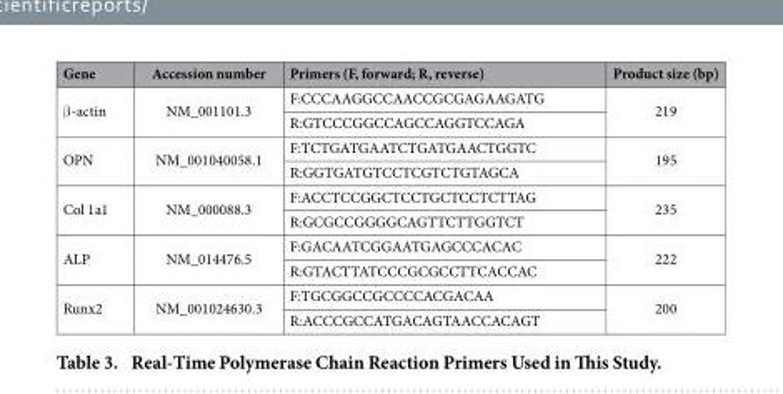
<table><thead><tr><td>Gene</td><td>Accession number</td><td>Primers (F, forward; R, reverse)</td><td>Product size (bp)</td></tr></thead><tbody><tr><td rowspan="2">β -actin</td><td rowspan="2">NM_001101.3</td><td>F:CCCAAGGCCAACCGCGAGAAGATG</td><td rowspan="2">219</td></tr><tr><td>R:GTCCCGGCCAGCCAGGTCCAGA</td></tr><tr><td rowspan="2">OPN</td><td rowspan="2">NM_001040058.1</td><td>F:TCTGATGAATCTGATGAACTGGTC</td><td rowspan="2">195</td></tr><tr><td>R:GGTGATGTCCTCGTCTGTAGCA</td></tr><tr><td rowspan="2">Col 1a1</td><td rowspan="2">NM_000088.3</td><td>F:ACCTCCGGCTCCTGCTCCTCTTAG</td><td rowspan="2">235</td></tr><tr><td>R:GCGCCGGGGCAGTTCTTGGTCT</td></tr><tr><td rowspan="2">ALP</td><td rowspan="2">NM_014476.5</td><td>F:GACAATCGGAATGAGCCCACAC</td><td rowspan="2">222</td></tr><tr><td>R:GTACTTATCCCGCGCCTTCACCAC</td></tr><tr><td rowspan="2">Runx2</td><td rowspan="2">NM_001024630.3</td><td>F:TGCGGCCGCCCCACGACAA</td><td rowspan="2">200</td></tr><tr><td>R:ACCCGCCATGACAGTAACCACAGT</td></tr></tbody></table>